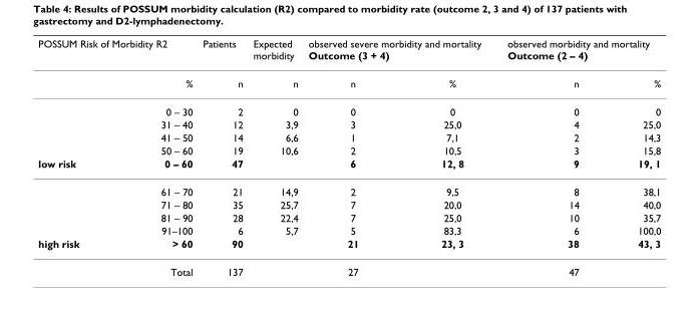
<table><thead><tr><td colspan="2">POSSUM Risk of Morbidity R2</td><td rowspan="2">Patients n</td><td rowspan="2">Expected morbidity n</td><td colspan="2">observed severe morbidity and mortality Outcome (3 + 4)</td><td colspan="2">observed morbidity and mortality Outcome (2 – 4)</td></tr><tr><td></td><td>%</td><td>n</td><td>%</td><td>n</td><td>%</td></tr></thead><tbody><tr><td></td><td>0 – 30</td><td>2</td><td>0</td><td>0</td><td>0</td><td>0</td><td>0</td></tr><tr><td></td><td>31 – 40</td><td>12</td><td>3,9</td><td>3</td><td>25,0</td><td>4</td><td>25,0</td></tr><tr><td></td><td>41 – 50</td><td>14</td><td>6,6</td><td>1</td><td>7,1</td><td>2</td><td>14,3</td></tr><tr><td></td><td>50 – 60</td><td>19</td><td>10,6</td><td>2</td><td>10,5</td><td>3</td><td>15,8</td></tr><tr><td rowspan="5">low risk</td><td>0 – 60</td><td>47</td><td></td><td>6</td><td>12, 8</td><td>9</td><td>19, 1</td></tr><tr><td>61 – 70</td><td>21</td><td>14,9</td><td>2</td><td>9,5</td><td>8</td><td>38,1</td></tr><tr><td>71 – 80</td><td>35</td><td>25,7</td><td>7</td><td>20,0</td><td>14</td><td>40,0</td></tr><tr><td>81 – 90</td><td>28</td><td>22,4</td><td>7</td><td>25,0</td><td>10</td><td>35,7</td></tr><tr><td>91–100</td><td>6</td><td>5,7</td><td>5</td><td>83,3</td><td>6</td><td>100,0</td></tr><tr><td rowspan="2">high risk</td><td>&gt; 60</td><td>90</td><td></td><td>21</td><td>23, 3</td><td>38</td><td>43, 3</td></tr><tr><td>Total</td><td>137</td><td></td><td>27</td><td></td><td>47</td><td></td></tr></tbody></table>